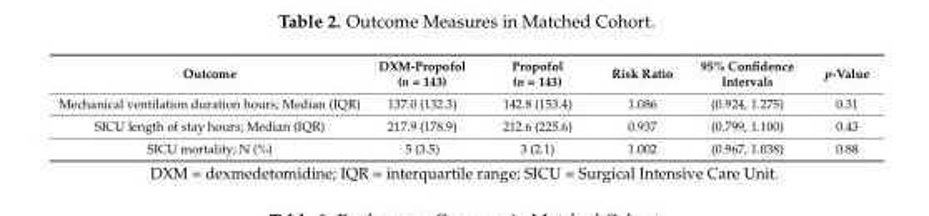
<table><thead><tr><td>Outcome</td><td>DXM-Propofol (n = 143)</td><td>Propofol (n = 143)</td><td>Risk Ratio</td><td>95% Confidence Intervals</td><td>p-Value</td></tr></thead><tbody><tr><td>Mechanical ventilation duration hours; Median (IQR)</td><td>137.0 (132.3)</td><td>142.8 (153.4)</td><td>1.086</td><td>(0.924, 1.275)</td><td>0.31</td></tr><tr><td>SICU length of stay hours; Median (IQR)</td><td>217.9 (178.9)</td><td>212.6 (225.6)</td><td>0.937</td><td>(0.799, 1.100)</td><td>0.43</td></tr><tr><td>SICU mortality; N (%)</td><td>5 (3.5)</td><td>3 (2.1)</td><td>1.002</td><td>(0.967, 1.038)</td><td>0.88</td></tr></tbody></table>